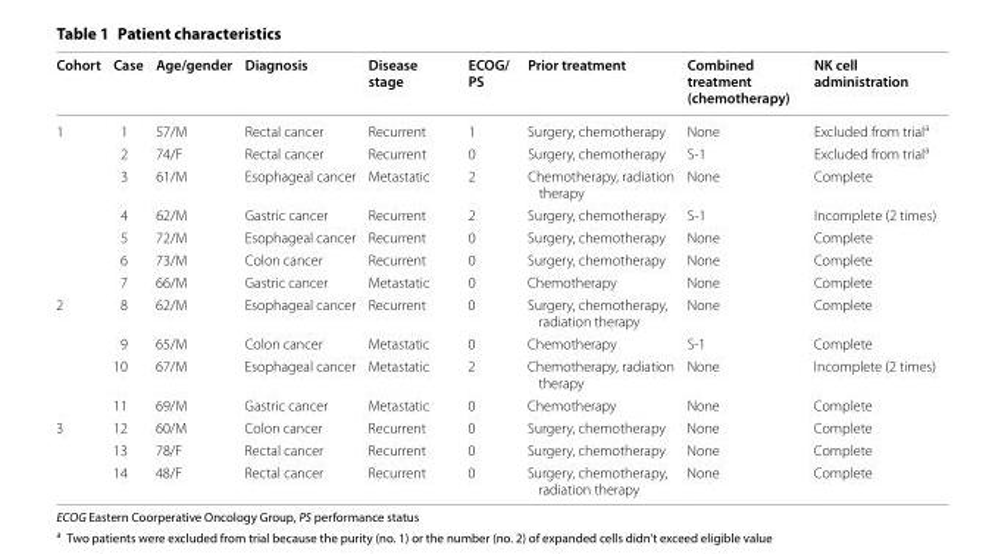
<table><thead><tr><td>Cohort</td><td>Case</td><td>Age/gender</td><td>Diagnosis</td><td>Disease stage</td><td>ECOG/ PS</td><td>Prior treatment</td><td>Combined treatment (chemotherapy)</td><td>NK cell administration</td></tr></thead><tbody><tr><td rowspan="7">1</td><td>1</td><td>57/M</td><td>Rectal cancer</td><td>Recurrent</td><td>1</td><td>Surgery, chemotherapy</td><td>None</td><td>Excluded from trial<sup>a</sup></td></tr><tr><td>2</td><td>74/F</td><td>Rectal cancer</td><td>Recurrent</td><td>0</td><td>Surgery, chemotherapy</td><td>S-1</td><td>Excluded from trial<sup>a</sup></td></tr><tr><td>3</td><td>61/M</td><td>Esophageal cancer</td><td>Metastatic</td><td>2</td><td>Chemotherapy, radiation therapy</td><td>None</td><td>Complete</td></tr><tr><td>4</td><td>62/M</td><td>Gastric cancer</td><td>Recurrent</td><td>2</td><td>Surgery, chemotherapy</td><td>S-1</td><td>Incomplete (2 times)</td></tr><tr><td>5</td><td>72/M</td><td>Esophageal cancer</td><td>Recurrent</td><td>0</td><td>Surgery, chemotherapy</td><td>None</td><td>Complete</td></tr><tr><td>6</td><td>73/M</td><td>Colon cancer</td><td>Recurrent</td><td>0</td><td>Surgery, chemotherapy</td><td>None</td><td>Complete</td></tr><tr><td>7</td><td>66/M</td><td>Gastric cancer</td><td>Metastatic</td><td>0</td><td>Chemotherapy</td><td>None</td><td>Complete</td></tr><tr><td rowspan="4">2</td><td>8</td><td>62/M</td><td>Esophageal cancer</td><td>Recurrent</td><td>0</td><td>Surgery, chemotherapy, radiation therapy</td><td>None</td><td>Complete</td></tr><tr><td>9</td><td>65/M</td><td>Colon cancer</td><td>Metastatic</td><td>0</td><td>Chemotherapy</td><td>S-1</td><td>Complete</td></tr><tr><td>10</td><td>67/M</td><td>Esophageal cancer</td><td>Metastatic</td><td>2</td><td>Chemotherapy, radiation therapy</td><td>None</td><td>Incomplete (2 times)</td></tr><tr><td>11</td><td>69/M</td><td>Gastric cancer</td><td>Metastatic</td><td>0</td><td>Chemotherapy</td><td>None</td><td>Complete</td></tr><tr><td rowspan="3">3</td><td>12</td><td>60/M</td><td>Colon cancer</td><td>Recurrent</td><td>0</td><td>Surgery, chemotherapy</td><td>None</td><td>Complete</td></tr><tr><td>13</td><td>78/F</td><td>Rectal cancer</td><td>Recurrent</td><td>0</td><td>Surgery, chemotherapy</td><td>None</td><td>Complete</td></tr><tr><td>14</td><td>48/F</td><td>Rectal cancer</td><td>Recurrent</td><td>0</td><td>Surgery, chemotherapy, radiation therapy</td><td>None</td><td>Complete</td></tr></tbody></table>